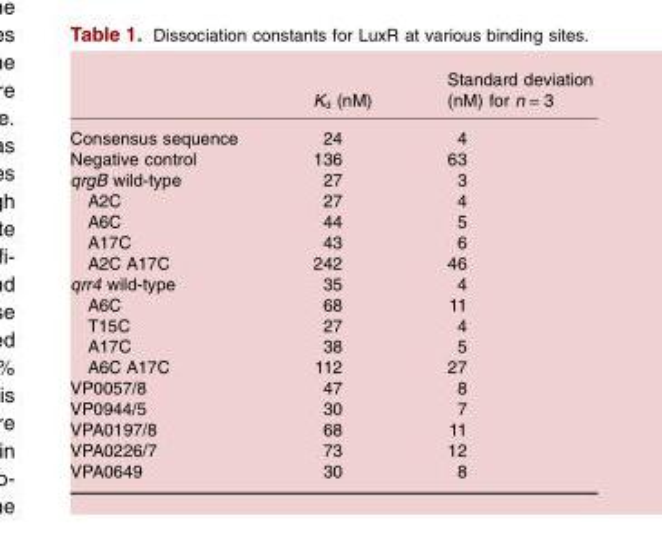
<table><thead><tr><td></td><td>K<sub>d</sub> (nM)</td><td>Standard deviation (nM) for n = 3</td></tr></thead><tbody><tr><td>Consensus sequence</td><td>24</td><td>4</td></tr><tr><td>Negative control</td><td>136</td><td>63</td></tr><tr><td>qrgB wild-type</td><td>27</td><td>3</td></tr><tr><td>A2C</td><td>27</td><td>4</td></tr><tr><td>A6C</td><td>44</td><td>5</td></tr><tr><td>A17C</td><td>43</td><td>6</td></tr><tr><td>A2C A17C</td><td>242</td><td>46</td></tr><tr><td>qrr4 wild-type</td><td>35</td><td>4</td></tr><tr><td>A6C</td><td>68</td><td>11</td></tr><tr><td>T15C</td><td>27</td><td>4</td></tr><tr><td>A17C</td><td>38</td><td>5</td></tr><tr><td>A6C A17C</td><td>112</td><td>27</td></tr><tr><td>VP0057/8</td><td>47</td><td>8</td></tr><tr><td>VP0944/5</td><td>30</td><td>7</td></tr><tr><td>VPA0197/8</td><td>68</td><td>11</td></tr><tr><td>VPA0226/7</td><td>73</td><td>12</td></tr><tr><td>VPA0649</td><td>30</td><td>8</td></tr></tbody></table>